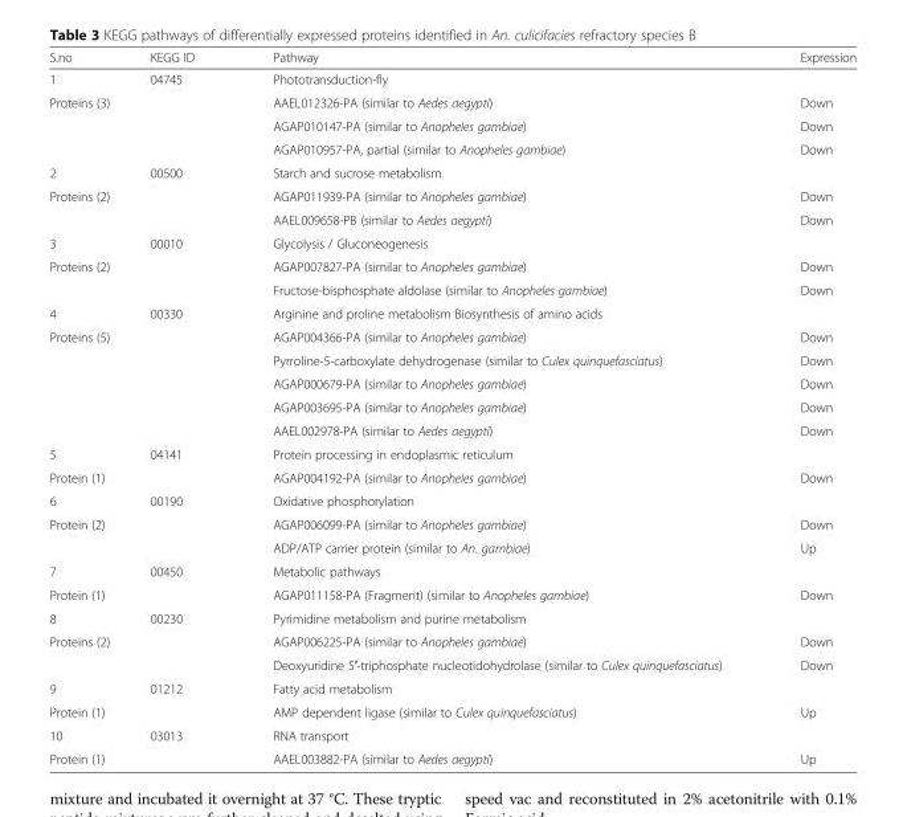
<table><thead><tr><td>S.no</td><td>KEGG ID</td><td>Pathway</td><td>Expression</td></tr></thead><tbody><tr><td>1</td><td>04745</td><td colspan="2">Phototransduction-fly</td></tr><tr><td rowspan="3" colspan="2">Proteins (3)</td><td>AAEL012326-PA (similar to Aedes aegypti)</td><td>Down</td></tr><tr><td>AGAP010147-PA (similar to Anopheles gambiae)</td><td>Down</td></tr><tr><td>AGAP010957-PA, partial (similar to Anopheles gambiae)</td><td>Down</td></tr><tr><td>2</td><td>00500</td><td colspan="2">Starch and sucrose metabolism</td></tr><tr><td rowspan="2" colspan="2">Proteins (2)</td><td>AGAP011939-PA (similar to Anopheles gambiae)</td><td>Down</td></tr><tr><td>AAEL009658-PB (similar to Aedes aegypti)</td><td>Down</td></tr><tr><td>3</td><td>00010</td><td colspan="2">Glycolysis / Gluconeogenesis</td></tr><tr><td rowspan="2" colspan="2">Proteins (2)</td><td>AGAP007827-PA (similar to Anopheles gambiae)</td><td>Down</td></tr><tr><td>Fructose-bisphosphate aldolase (similar to Anopheles gambiae)</td><td>Down</td></tr><tr><td>4</td><td>00330</td><td colspan="2">Arginine and proline metabolism Biosynthesis of amino acids</td></tr><tr><td rowspan="5" colspan="2">Proteins (5)</td><td>AGAP004366-PA (similar to Anopheles gambiae)</td><td>Down</td></tr><tr><td>Pyrroline-5-carboxylate dehydrogenase (similar to Culex quinquefasciatus)</td><td>Down</td></tr><tr><td>AGAP000679-PA (similar to Anopheles gambiae)</td><td>Down</td></tr><tr><td>AGAP003695-PA (similar to Anopheles gambiae)</td><td>Down</td></tr><tr><td>AAEL002978-PA (similar to Aedes aegypti)</td><td>Down</td></tr><tr><td>5</td><td>04141</td><td colspan="2">Protein processing in endoplasmic reticulum</td></tr><tr><td colspan="2">Protein (1)</td><td>AGAP004192-PA (similar to Anopheles gambiae)</td><td>Down</td></tr><tr><td>6</td><td>00190</td><td colspan="2">Oxidative phosphorylation</td></tr><tr><td rowspan="2" colspan="2">Protein (2)</td><td>AGAP006099-PA (similar to Anopheles gambiae)</td><td>Down</td></tr><tr><td>ADP/ATP carrier protein (similar to An. gambiae)</td><td>Up</td></tr><tr><td>7</td><td>00450</td><td colspan="2">Metabolic pathways</td></tr><tr><td colspan="2">Protein (1)</td><td>AGAP011158-PA (Fragment) (similar to Anopheles gambiae)</td><td>Down</td></tr><tr><td>8</td><td>00230</td><td colspan="2">Pyrimidine metabolism and purine metabolism</td></tr><tr><td rowspan="2" colspan="2">Proteins (2)</td><td>AGAP006225-PA (similar to Anopheles gambiae)</td><td>Down</td></tr><tr><td>Deoxyuridine 5′-triphosphate nucleotidohydrolase (similar to Culex quinquefasciatus)</td><td>Down</td></tr><tr><td>9</td><td>01212</td><td colspan="2">Fatty acid metabolism</td></tr><tr><td colspan="2">Protein (1)</td><td>AMP dependent ligase (similar to Culex quinquefasciatus)</td><td>Up</td></tr><tr><td>10</td><td>03013</td><td colspan="2">RNA transport</td></tr><tr><td colspan="2">Protein (1)</td><td>AAEL003882-PA (similar to Aedes aegypti)</td><td>Up</td></tr></tbody></table>